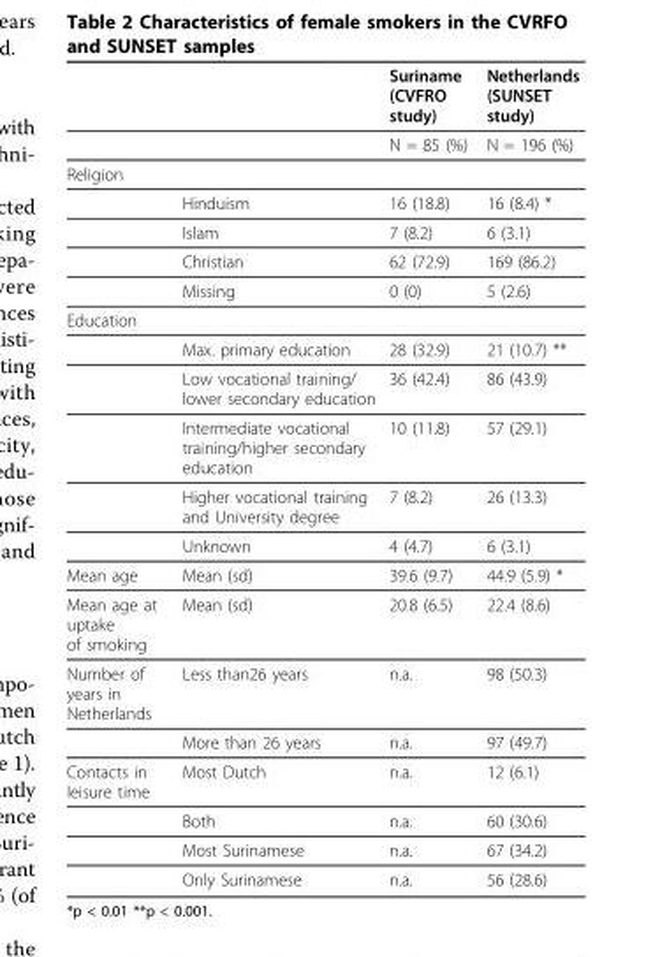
<table><thead><tr><td></td><td></td><td>Suriname (CVFRO study)</td><td>Netherlands (SUNSET study)</td></tr></thead><tbody><tr><td></td><td></td><td>N = 85 (%)</td><td>N = 196 (%)</td></tr><tr><td colspan="4">Religion</td></tr><tr><td></td><td>Hinduism</td><td>16 (18.8)</td><td>16 (8.4) *</td></tr><tr><td></td><td>Islam</td><td>7 (8.2)</td><td>6 (3.1)</td></tr><tr><td></td><td>Christian</td><td>62 (72.9)</td><td>169 (86.2)</td></tr><tr><td></td><td>Missing</td><td>0 (0)</td><td>5 (2.6)</td></tr><tr><td colspan="4">Education</td></tr><tr><td></td><td>Max. primary education</td><td>28 (32.9)</td><td>21 (10.7) **</td></tr><tr><td></td><td>Low vocational training/ lower secondary education</td><td>36 (42.4)</td><td>86 (43.9)</td></tr><tr><td></td><td>Intermediate vocational training/higher secondary education</td><td>10 (11.8)</td><td>57 (29.1)</td></tr><tr><td></td><td>Higher vocational training and University degree</td><td>7 (8.2)</td><td>26 (13.3)</td></tr><tr><td></td><td>Unknown</td><td>4 (4.7)</td><td>6 (3.1)</td></tr><tr><td>Mean age</td><td>Mean (sd)</td><td>39.6 (9.7)</td><td>44.9 (5.9) *</td></tr><tr><td>Mean age at uptake of smoking</td><td>Mean (sd)</td><td>20.8 (6.5)</td><td>22.4 (8.6)</td></tr><tr><td rowspan="2">Number of years in Netherlands</td><td>Less than26 years</td><td>n.a.</td><td>98 (50.3)</td></tr><tr><td>More than 26 years</td><td>n.a.</td><td>97 (49.7)</td></tr><tr><td rowspan="4">Contacts in leisure time</td><td>Most Dutch</td><td>n.a.</td><td>12 (6.1)</td></tr><tr><td>Both</td><td>n.a.</td><td>60 (30.6)</td></tr><tr><td>Most Surinamese</td><td>n.a.</td><td>67 (34.2)</td></tr><tr><td>Only Surinamese</td><td>n.a.</td><td>56 (28.6)</td></tr></tbody></table>